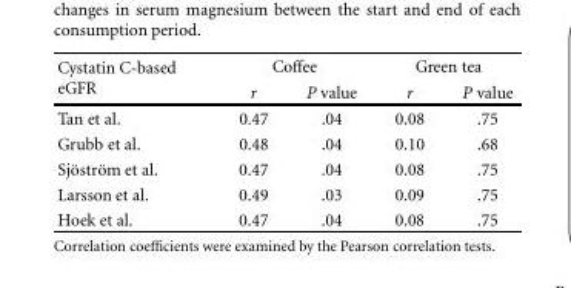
<table><thead><tr><td rowspan="2">Cystatin C-based eGFR</td><td colspan="2">Coffee</td><td colspan="2">Green tea</td></tr><tr><td>r</td><td>P value</td><td>r</td><td>P value</td></tr></thead><tbody><tr><td>Tan et al.</td><td>0.47</td><td>.04</td><td>0.08</td><td>.75</td></tr><tr><td>Grubb et al.</td><td>0.48</td><td>.04</td><td>0.10</td><td>.68</td></tr><tr><td>Sj¨ostr¨om et al.</td><td>0.47</td><td>.04</td><td>0.08</td><td>.75</td></tr><tr><td>Larsson et al.</td><td>0.49</td><td>.03</td><td>0.09</td><td>.75</td></tr><tr><td>Hoek et al.</td><td>0.47</td><td>.04</td><td>0.08</td><td>.75</td></tr></tbody></table>